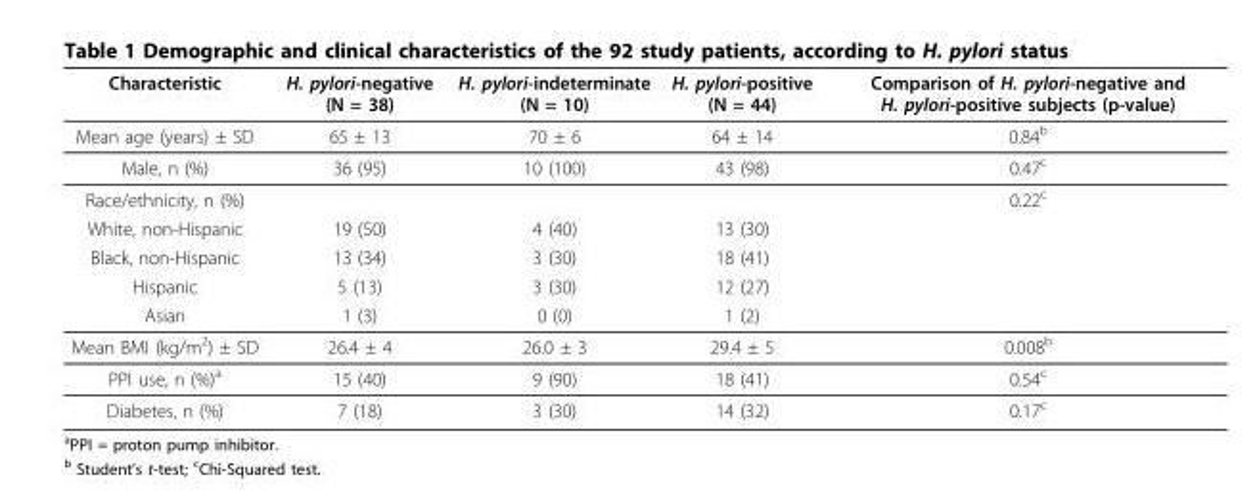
<table><thead><tr><td>Characteristic</td><td>H. pylori-negative (N = 38)</td><td>H. pylori-indeterminate (N = 10)</td><td>H. pylori-positive (N = 44)</td><td>Comparison of H. pylori-negative and H. pylori-positive subjects (p-value)</td></tr></thead><tbody><tr><td>Mean age (years) ± SD</td><td>65 ± 13</td><td>70 ± 6</td><td>64 ± 14</td><td>0.84<sup>b</sup></td></tr><tr><td>Male, n (%)</td><td>36 (95)</td><td>10 (100)</td><td>43 (98)</td><td>0.47<sup>c</sup></td></tr><tr><td>Race/ethnicity, n (%)</td><td></td><td></td><td></td><td>0.22<sup>c</sup></td></tr><tr><td>White, non-Hispanic</td><td>19 (50)</td><td>4 (40)</td><td>13 (30)</td><td></td></tr><tr><td>Black, non-Hispanic</td><td>13 (34)</td><td>3 (30)</td><td>18 (41)</td><td></td></tr><tr><td>Hispanic</td><td>5 (13)</td><td>3 (30)</td><td>12 (27)</td><td></td></tr><tr><td>Asian</td><td>1 (3)</td><td>0 (0)</td><td>1 (2)</td><td></td></tr><tr><td>Mean BMI (kg/m<sup>2</sup>) ± SD</td><td>26.4 ± 4</td><td>26.0 ± 3</td><td>29.4 ± 5</td><td>0.008<sup>b</sup></td></tr><tr><td>PPI use, n (%)<sup>a</sup></td><td>15 (40)</td><td>9 (90)</td><td>18 (41)</td><td>0.54<sup>c</sup></td></tr><tr><td>Diabetes, n (%)</td><td>7 (18)</td><td>3 (30)</td><td>14 (32)</td><td>0.17<sup>c</sup></td></tr></tbody></table>